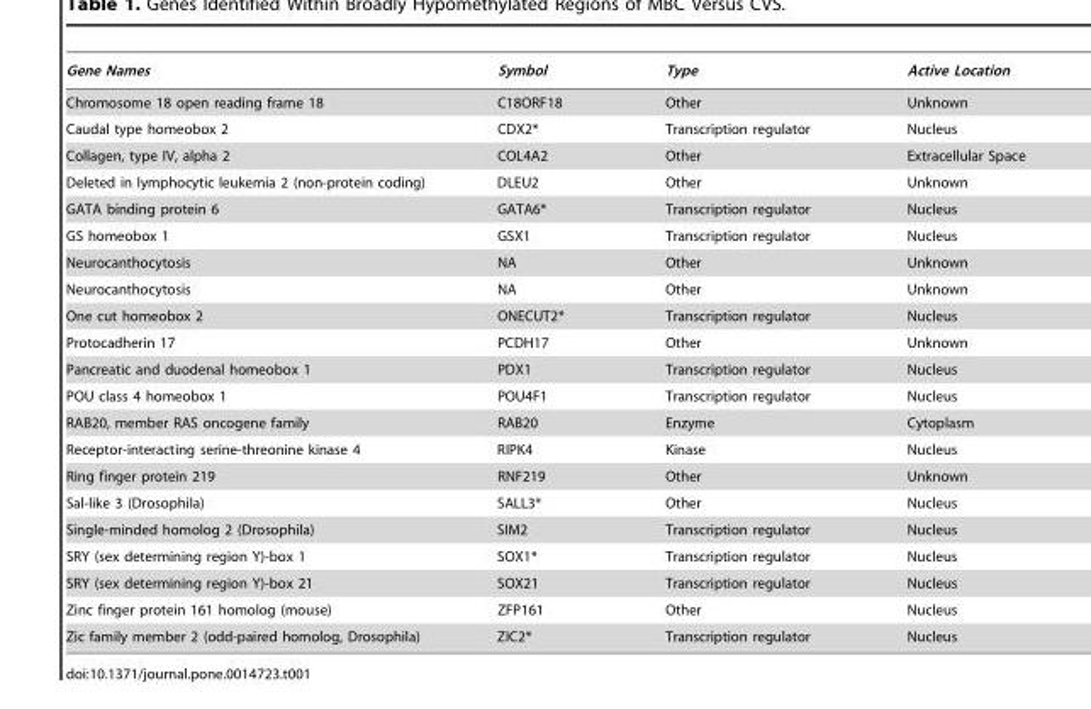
<table><thead><tr><td>Gene Names</td><td>Symbol</td><td>Type</td><td>Active Location</td></tr></thead><tbody><tr><td>Chromosome 18 open reading frame 18</td><td>C18ORF18</td><td>Other</td><td>Unknown</td></tr><tr><td>Caudal type homeobox 2</td><td>CDX2*</td><td>Transcription regulator</td><td>Nucleus</td></tr><tr><td>Collagen, type IV, alpha 2</td><td>COL4A2</td><td>Other</td><td>Extracellular Space</td></tr><tr><td>Deleted in lymphocytic leukemia 2 (non-protein coding)</td><td>DLEU2</td><td>Other</td><td>Unknown</td></tr><tr><td>GATA binding protein 6</td><td>GATA6*</td><td>Transcription regulator</td><td>Nucleus</td></tr><tr><td>GS homeobox 1</td><td>GSX1</td><td>Transcription regulator</td><td>Nucleus</td></tr><tr><td>Neurocanthocytosis</td><td>NA</td><td>Other</td><td>Unknown</td></tr><tr><td>Neurocanthocytosis</td><td>NA</td><td>Other</td><td>Unknown</td></tr><tr><td>One cut homeobox 2</td><td>ONECUT2*</td><td>Transcription regulator</td><td>Nucleus</td></tr><tr><td>Protocadherin 17</td><td>PCDH17</td><td>Other</td><td>Unknown</td></tr><tr><td>Pancreatic and duodenal homeobox 1</td><td>PDX1</td><td>Transcription regulator</td><td>Nucleus</td></tr><tr><td>POU class 4 homeobox 1</td><td>POU4F1</td><td>Transcription regulator</td><td>Nucleus</td></tr><tr><td>RAB20, member RAS oncogene family</td><td>RAB20</td><td>Enzyme</td><td>Cytoplasm</td></tr><tr><td>Receptor-interacting serine-threonine kinase 4</td><td>RIPK4</td><td>Kinase</td><td>Nucleus</td></tr><tr><td>Ring finger protein 219</td><td>RNF219</td><td>Other</td><td>Unknown</td></tr><tr><td>Sal-like 3 (Drosophila)</td><td>SALL3*</td><td>Other</td><td>Nucleus</td></tr><tr><td>Single-minded homolog 2 (Drosophila)</td><td>SIM2</td><td>Transcription regulator</td><td>Nucleus</td></tr><tr><td>SRY (sex determining region Y)-box 1</td><td>SOX1*</td><td>Transcription regulator</td><td>Nucleus</td></tr><tr><td>SRY (sex determining region Y)-box 21</td><td>SOX21</td><td>Transcription regulator</td><td>Nucleus</td></tr><tr><td>Zinc finger protein 161 homolog (mouse)</td><td>ZFP161</td><td>Other</td><td>Nucleus</td></tr><tr><td>Zic family member 2 (odd-paired homolog, Drosophila)</td><td>ZIC2*</td><td>Transcription regulator</td><td>Nucleus</td></tr></tbody></table>